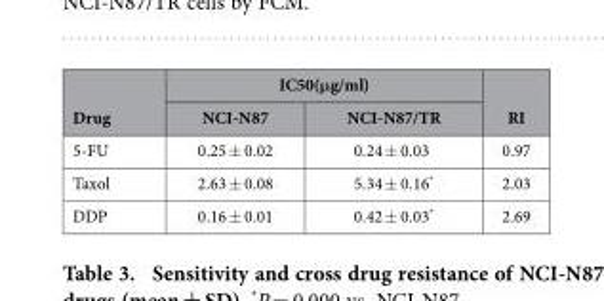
<table><thead><tr><td rowspan="2">Drug</td><td colspan="2">IC50(μg/ml)</td><td rowspan="2">RI</td></tr><tr><td>NCI-N87</td><td>NCI-N87/TR</td></tr></thead><tbody><tr><td>5-FU</td><td>0.25 ± 0.02</td><td>0.24 ± 0.03</td><td>0.97</td></tr><tr><td>Taxol</td><td>2.63 ± 0.08</td><td>5.34 ± 0.16*</td><td>2.03</td></tr><tr><td>DDP</td><td>0.16 ± 0.01</td><td>0.42 ± 0.03*</td><td>2.69</td></tr></tbody></table>